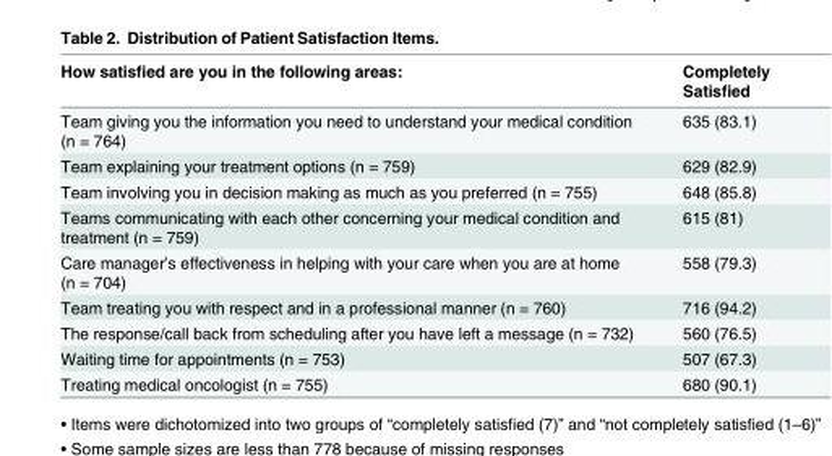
<table><thead><tr><td>How satisfied are you in the following areas:</td><td>Completely Satisfied</td></tr></thead><tbody><tr><td>Team giving you the information you need to understand your medical condition (n = 764)</td><td>635 (83.1)</td></tr><tr><td>Team explaining your treatment options (n = 759)</td><td>629 (82.9)</td></tr><tr><td>Team involving you in decision making as much as you preferred (n = 755)</td><td>648 (85.8)</td></tr><tr><td>Teams communicating with each other concerning your medical condition and treatment (n = 759)</td><td>615 (81)</td></tr><tr><td>Care manager’s effectiveness in helping with your care when you are at home (n = 704)</td><td>558 (79.3)</td></tr><tr><td>Team treating you with respect and in a professional manner (n = 760)</td><td>716 (94.2)</td></tr><tr><td>The response/call back from scheduling after you have left a message (n = 732)</td><td>560 (76.5)</td></tr><tr><td>Waiting time for appointments (n = 753)</td><td>507 (67.3)</td></tr><tr><td>Treating medical oncologist (n = 755)</td><td>680 (90.1)</td></tr></tbody></table>